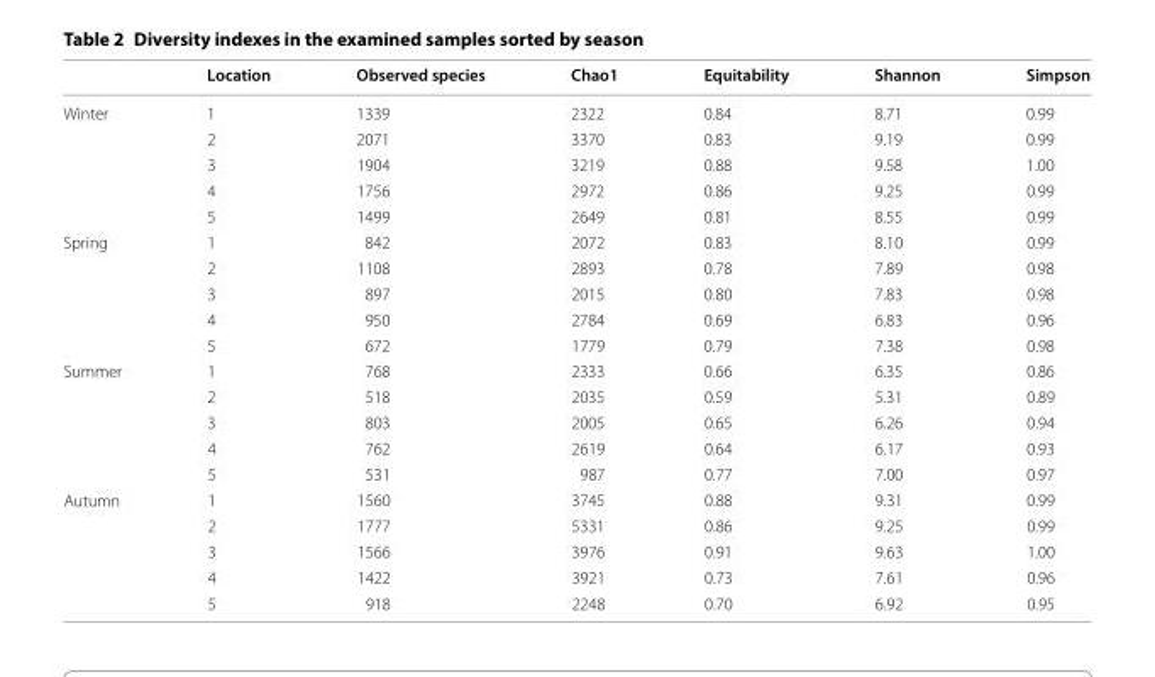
<table><thead><tr><td></td><td>Location</td><td>Observed species</td><td>Chao1</td><td>Equitability</td><td>Shannon</td><td>Simpson</td></tr></thead><tbody><tr><td rowspan="5">Winter</td><td>1</td><td>1339</td><td>2322</td><td>0.84</td><td>8.71</td><td>0.99</td></tr><tr><td>2</td><td>2071</td><td>3370</td><td>0.83</td><td>9.19</td><td>0.99</td></tr><tr><td>3</td><td>1904</td><td>3219</td><td>0.88</td><td>9.58</td><td>1.00</td></tr><tr><td>4</td><td>1756</td><td>2972</td><td>0.86</td><td>9.25</td><td>0.99</td></tr><tr><td>5</td><td>1499</td><td>2649</td><td>0.81</td><td>8.55</td><td>0.99</td></tr><tr><td rowspan="5">Spring</td><td>1</td><td>842</td><td>2072</td><td>0.83</td><td>8.10</td><td>0.99</td></tr><tr><td>2</td><td>1108</td><td>2893</td><td>0.78</td><td>7.89</td><td>0.98</td></tr><tr><td>3</td><td>897</td><td>2015</td><td>0.80</td><td>7.83</td><td>0.98</td></tr><tr><td>4</td><td>950</td><td>2784</td><td>0.69</td><td>6.83</td><td>0.96</td></tr><tr><td>5</td><td>672</td><td>1779</td><td>0.79</td><td>7.38</td><td>0.98</td></tr><tr><td rowspan="5">Summer</td><td>1</td><td>768</td><td>2333</td><td>0.66</td><td>6.35</td><td>0.86</td></tr><tr><td>2</td><td>518</td><td>2035</td><td>0.59</td><td>5.31</td><td>0.89</td></tr><tr><td>3</td><td>803</td><td>2005</td><td>0.65</td><td>6.26</td><td>0.94</td></tr><tr><td>4</td><td>762</td><td>2619</td><td>0.64</td><td>6.17</td><td>0.93</td></tr><tr><td>5</td><td>531</td><td>987</td><td>0.77</td><td>7.00</td><td>0.97</td></tr><tr><td rowspan="5">Autumn</td><td>1</td><td>1560</td><td>3745</td><td>0.88</td><td>9.31</td><td>0.99</td></tr><tr><td>2</td><td>1777</td><td>5331</td><td>0.86</td><td>9.25</td><td>0.99</td></tr><tr><td>3</td><td>1566</td><td>3976</td><td>0.91</td><td>9.63</td><td>1.00</td></tr><tr><td>4</td><td>1422</td><td>3921</td><td>0.73</td><td>7.61</td><td>0.96</td></tr><tr><td>5</td><td>918</td><td>2248</td><td>0.70</td><td>6.92</td><td>0.95</td></tr></tbody></table>